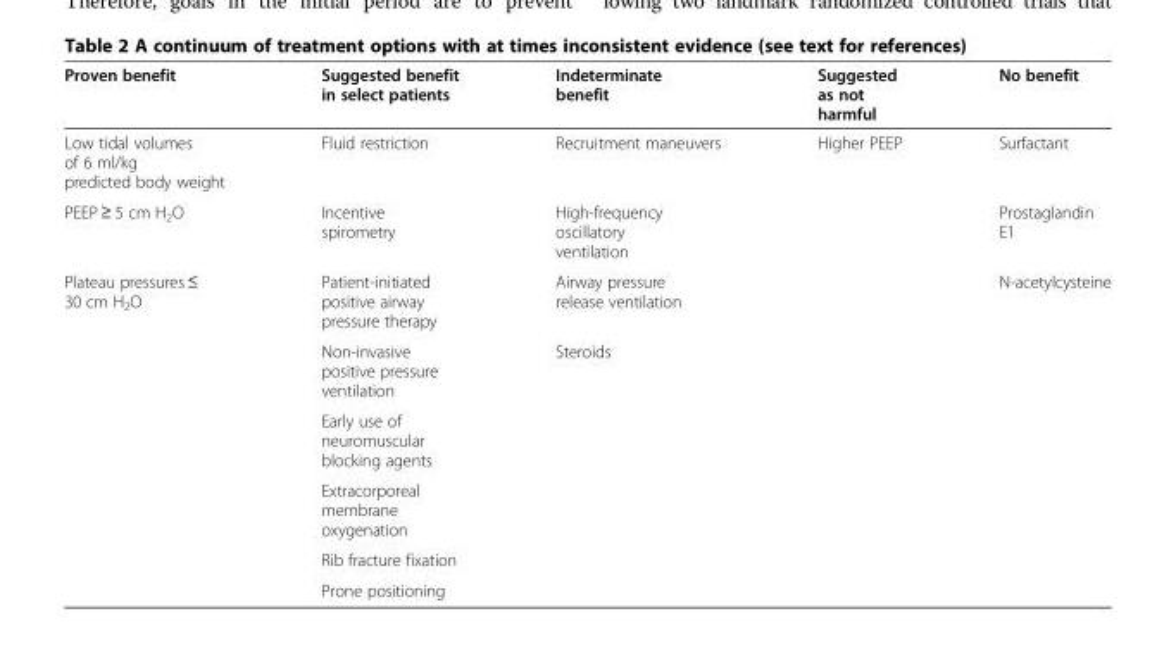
<table><thead><tr><td>Proven benefit</td><td>Suggested benefit in select patients</td><td>Indeterminate benefit</td><td>Suggested as not harmful</td><td>No benefit</td></tr></thead><tbody><tr><td>Low tidal volumes of 6 ml/kg predicted body weight</td><td>Fluid restriction</td><td>Recruitment maneuvers</td><td>Higher PEEP</td><td>Surfactant</td></tr><tr><td>PEEP ≥ 5 cm H<sub>2</sub>O</td><td>Incentive spirometry</td><td>High-frequency oscillatory ventilation</td><td></td><td>Prostaglandin E1</td></tr><tr><td rowspan="6">Plateau pressures ≤ 30 cm H<sub>2</sub>O</td><td>Patient-initiated positive airway pressure therapy</td><td>Airway pressure release ventilation</td><td></td><td>N-acetylcysteine</td></tr><tr><td>Non-invasive positive pressure ventilation</td><td>Steroids</td><td></td><td></td></tr><tr><td>Early use of neuromuscular blocking agents</td><td></td><td></td><td></td></tr><tr><td>Extracorporeal membrane oxygenation</td><td></td><td></td><td></td></tr><tr><td>Rib fracture fixation</td><td></td><td></td><td></td></tr><tr><td>Prone positioning</td><td></td><td></td><td></td></tr></tbody></table>